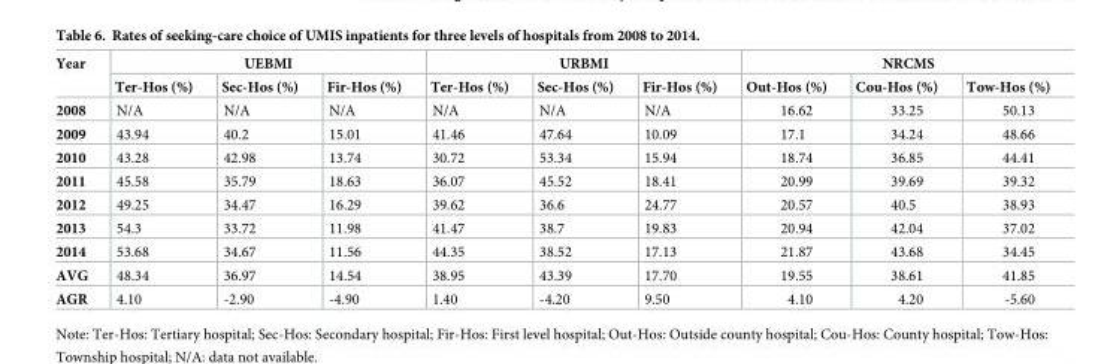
<table><thead><tr><td rowspan="2">Year</td><td colspan="3">UEBMI</td><td colspan="3">URBMI</td><td colspan="3">NRCMS</td></tr><tr><td>Ter-Hos (%)</td><td>Sec-Hos (%)</td><td>Fir-Hos (%)</td><td>Ter-Hos (%)</td><td>Sec-Hos (%)</td><td>Fir-Hos (%)</td><td>Out-Hos (%)</td><td>Cou-Hos (%)</td><td>Tow-Hos (%)</td></tr></thead><tbody><tr><td>2008</td><td>N/A</td><td>N/A</td><td>N/A</td><td>N/A</td><td>N/A</td><td>N/A</td><td>16.62</td><td>33.25</td><td>50.13</td></tr><tr><td>2009</td><td>43.94</td><td>40.2</td><td>15.01</td><td>41.46</td><td>47.64</td><td>10.09</td><td>17.1</td><td>34.24</td><td>48.66</td></tr><tr><td>2010</td><td>43.28</td><td>42.98</td><td>13.74</td><td>30.72</td><td>53.34</td><td>15.94</td><td>18.74</td><td>36.85</td><td>44.41</td></tr><tr><td>2011</td><td>45.58</td><td>35.79</td><td>18.63</td><td>36.07</td><td>45.52</td><td>18.41</td><td>20.99</td><td>39.69</td><td>39.32</td></tr><tr><td>2012</td><td>49.25</td><td>34.47</td><td>16.29</td><td>39.62</td><td>36.6</td><td>24.77</td><td>20.57</td><td>40.5</td><td>38.93</td></tr><tr><td>2013</td><td>54.3</td><td>33.72</td><td>11.98</td><td>41.47</td><td>38.7</td><td>19.83</td><td>20.94</td><td>42.04</td><td>37.02</td></tr><tr><td>2014</td><td>53.68</td><td>34.67</td><td>11.56</td><td>44.35</td><td>38.52</td><td>17.13</td><td>21.87</td><td>43.68</td><td>34.45</td></tr><tr><td>AVG</td><td>48.34</td><td>36.97</td><td>14.54</td><td>38.95</td><td>43.39</td><td>17.70</td><td>19.55</td><td>38.61</td><td>41.85</td></tr><tr><td>AGR</td><td>4.10</td><td>-2.90</td><td>-4.90</td><td>1.40</td><td>-4.20</td><td>9.50</td><td>4.10</td><td>4.20</td><td>-5.60</td></tr></tbody></table>